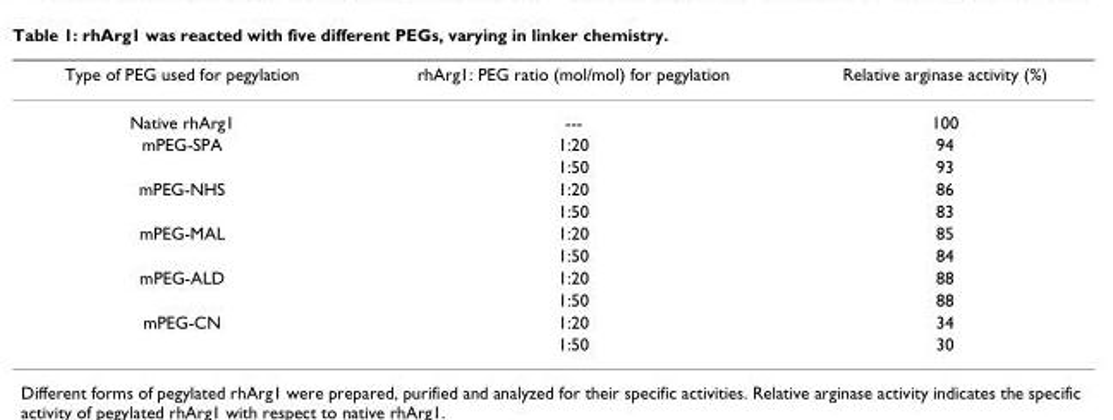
<table><thead><tr><td>Type of PEG used for pegylation</td><td>rhArg1: PEG ratio (mol/mol) for pegylation</td><td>Relative arginase activity (%)</td></tr></thead><tbody><tr><td>Native rhArg1</td><td>---</td><td>100</td></tr><tr><td rowspan="2">mPEG-SPA</td><td>1:20</td><td>94</td></tr><tr><td>1:50</td><td>93</td></tr><tr><td rowspan="2">mPEG-NHS</td><td>1:20</td><td>86</td></tr><tr><td>1:50</td><td>83</td></tr><tr><td rowspan="2">mPEG-MAL</td><td>1:20</td><td>85</td></tr><tr><td>1:50</td><td>84</td></tr><tr><td rowspan="2">mPEG-ALD</td><td>1:20</td><td>88</td></tr><tr><td>1:50</td><td>88</td></tr><tr><td rowspan="2">mPEG-CN</td><td>1:20</td><td>34</td></tr><tr><td>1:50</td><td>30</td></tr></tbody></table>